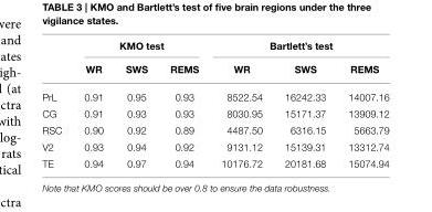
<table><thead><tr><td rowspan="2"></td><td colspan="3">KMO test</td><td colspan="3">Bartlett’s test</td></tr><tr><td>WR</td><td>SWS</td><td>REMS</td><td>WR</td><td>SWS</td><td>REMS</td></tr></thead><tbody><tr><td>PrL</td><td>0.91</td><td>0.95</td><td>0.93</td><td>8522.54</td><td>16242.33</td><td>14007.16</td></tr><tr><td>CG</td><td>0.91</td><td>0.93</td><td>0.93</td><td>8030.95</td><td>15171.37</td><td>13909.12</td></tr><tr><td>RSC</td><td>0.90</td><td>0.92</td><td>0.89</td><td>4487.50</td><td>6316.15</td><td>5663.79</td></tr><tr><td>V2</td><td>0.93</td><td>0.94</td><td>0.92</td><td>9131.12</td><td>15139.31</td><td>13312.74</td></tr><tr><td>TE</td><td>0.94</td><td>0.97</td><td>0.94</td><td>10176.72</td><td>20181.68</td><td>15074.94</td></tr></tbody></table>